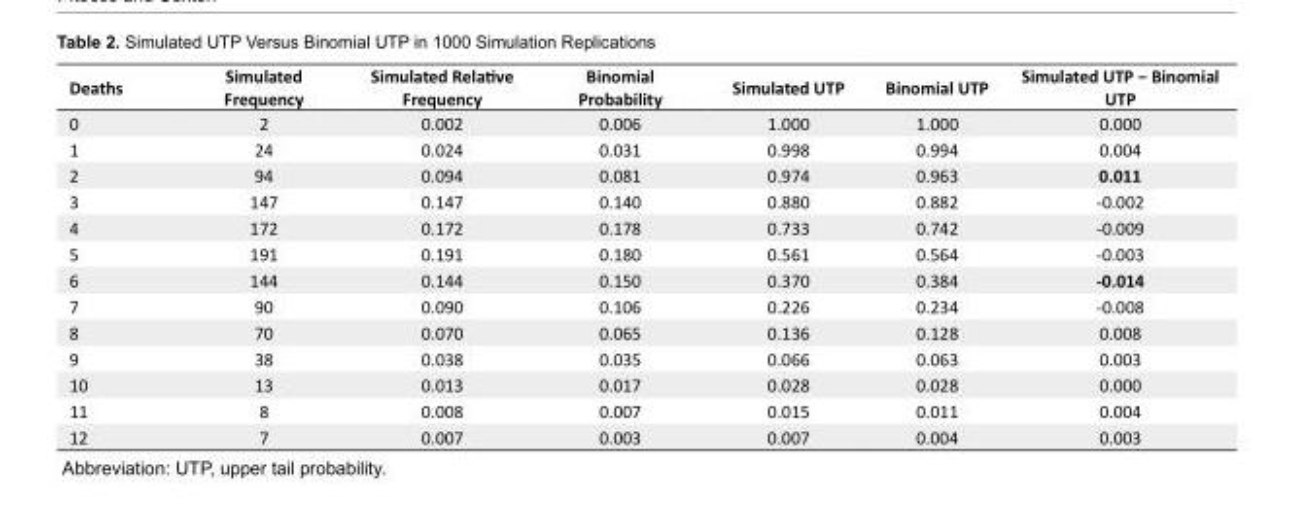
<table><tbody><tr><td>Deaths</td><td>Simulated Frequency</td><td>Simulated Relative Frequency</td><td>Binomial Probability</td><td>Simulated UTP</td><td>Binomial UTP</td><td>Simulated UTP − Binomial UTP</td></tr><tr><td>0</td><td>2</td><td>0.002</td><td>0.006</td><td>1.000</td><td>1.000</td><td>0.000</td></tr><tr><td>1</td><td>24</td><td>0.024</td><td>0.031</td><td>0.998</td><td>0.994</td><td>0.004</td></tr><tr><td>2</td><td>94</td><td>0.094</td><td>0.081</td><td>0.974</td><td>0.963</td><td>0.011</td></tr><tr><td>3</td><td>147</td><td>0.147</td><td>0.140</td><td>0.880</td><td>0.882</td><td>-0.002</td></tr><tr><td>4</td><td>172</td><td>0.172</td><td>0.178</td><td>0.733</td><td>0.742</td><td>-0.009</td></tr><tr><td>5</td><td>191</td><td>0.191</td><td>0.180</td><td>0.561</td><td>0.564</td><td>-0.003</td></tr><tr><td>6</td><td>144</td><td>0.144</td><td>0.150</td><td>0.370</td><td>0.384</td><td>-0.014</td></tr><tr><td>7</td><td>90</td><td>0.090</td><td>0.106</td><td>0.226</td><td>0.234</td><td>-0.008</td></tr><tr><td>8</td><td>70</td><td>0.070</td><td>0.065</td><td>0.136</td><td>0.128</td><td>0.008</td></tr><tr><td>9</td><td>38</td><td>0.038</td><td>0.035</td><td>0.066</td><td>0.063</td><td>0.003</td></tr><tr><td>10</td><td>13</td><td>0.013</td><td>0.017</td><td>0.028</td><td>0.028</td><td>0.000</td></tr><tr><td>11</td><td>8</td><td>0.008</td><td>0.007</td><td>0.015</td><td>0.011</td><td>0.004</td></tr><tr><td>12</td><td>7</td><td>0.007</td><td>0.003</td><td>0.007</td><td>0.004</td><td>0.003</td></tr></tbody></table>